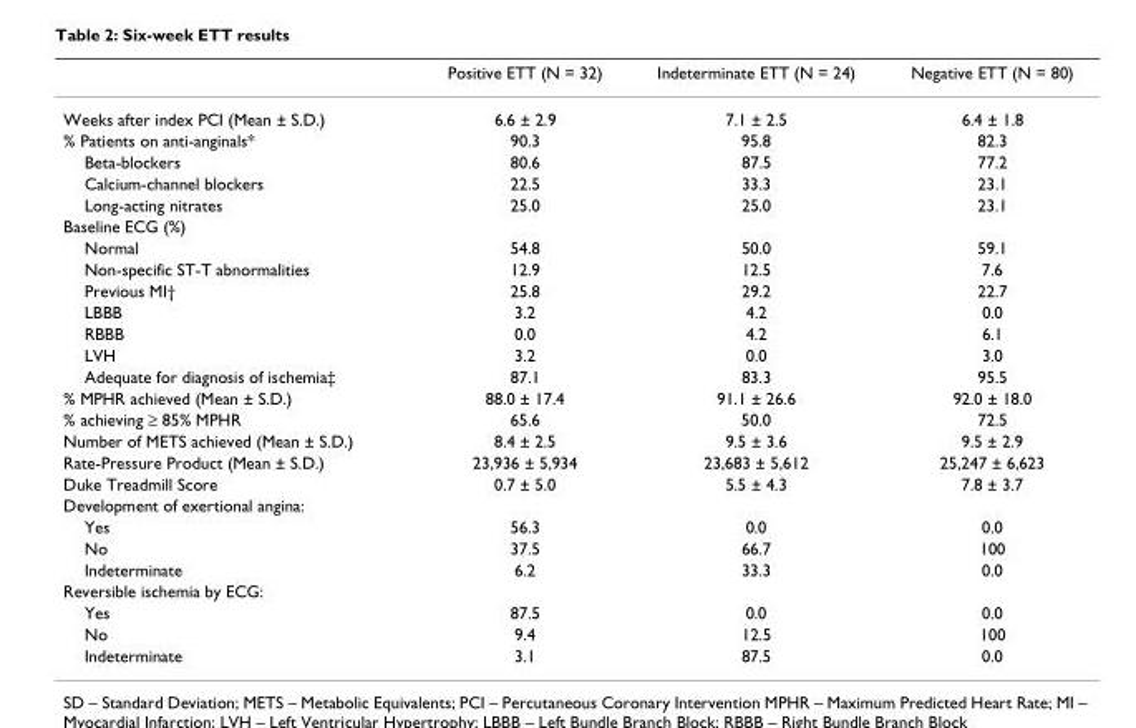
<table><thead><tr><td></td><td>Positive ETT (N = 32)</td><td>Indeterminate ETT (N = 24)</td><td>Negative ETT (N = 80)</td></tr></thead><tbody><tr><td>Weeks after index PCI (Mean ± S.D.)</td><td>6.6 ± 2.9</td><td>7.1 ± 2.5</td><td>6.4 ± 1.8</td></tr><tr><td>% Patients on anti-anginals*</td><td>90.3</td><td>95.8</td><td>82.3</td></tr><tr><td>Beta-blockers</td><td>80.6</td><td>87.5</td><td>77.2</td></tr><tr><td>Calcium-channel blockers</td><td>22.5</td><td>33.3</td><td>23.1</td></tr><tr><td>Long-acting nitrates</td><td>25.0</td><td>25.0</td><td>23.1</td></tr><tr><td colspan="4">Baseline ECG (%)</td></tr><tr><td>Normal</td><td>54.8</td><td>50.0</td><td>59.1</td></tr><tr><td>Non-specific ST-T abnormalities</td><td>12.9</td><td>12.5</td><td>7.6</td></tr><tr><td>Previous MI†</td><td>25.8</td><td>29.2</td><td>22.7</td></tr><tr><td>LBBB</td><td>3.2</td><td>4.2</td><td>0.0</td></tr><tr><td>RBBB</td><td>0.0</td><td>4.2</td><td>6.1</td></tr><tr><td>LVH</td><td>3.2</td><td>0.0</td><td>3.0</td></tr><tr><td>Adequate for diagnosis of ischemia‡</td><td>87.1</td><td>83.3</td><td>95.5</td></tr><tr><td>% MPHR achieved (Mean ± S.D.)</td><td>88.0 ± 17.4</td><td>91.1 ± 26.6</td><td>92.0 ± 18.0</td></tr><tr><td>% achieving ≥ 85% MPHR</td><td>65.6</td><td>50.0</td><td>72.5</td></tr><tr><td>Number of METS achieved (Mean ± S.D.)</td><td>8.4 ± 2.5</td><td>9.5 ± 3.6</td><td>9.5 ± 2.9</td></tr><tr><td>Rate-Pressure Product (Mean ± S.D.)</td><td>23,936 ± 5,934</td><td>23,683 ± 5,612</td><td>25,247 ± 6,623</td></tr><tr><td>Duke Treadmill Score</td><td>0.7 ± 5.0</td><td>5.5 ± 4.3</td><td>7.8 ± 3.7</td></tr><tr><td colspan="4">Development of exertional angina:</td></tr><tr><td>Yes</td><td>56.3</td><td>0.0</td><td>0.0</td></tr><tr><td>No</td><td>37.5</td><td>66.7</td><td>100</td></tr><tr><td>Indeterminate</td><td>6.2</td><td>33.3</td><td>0.0</td></tr><tr><td colspan="4">Reversible ischemia by ECG:</td></tr><tr><td>Yes</td><td>87.5</td><td>0.0</td><td>0.0</td></tr><tr><td>No</td><td>9.4</td><td>12.5</td><td>100</td></tr><tr><td>Indeterminate</td><td>3.1</td><td>87.5</td><td>0.0</td></tr></tbody></table>